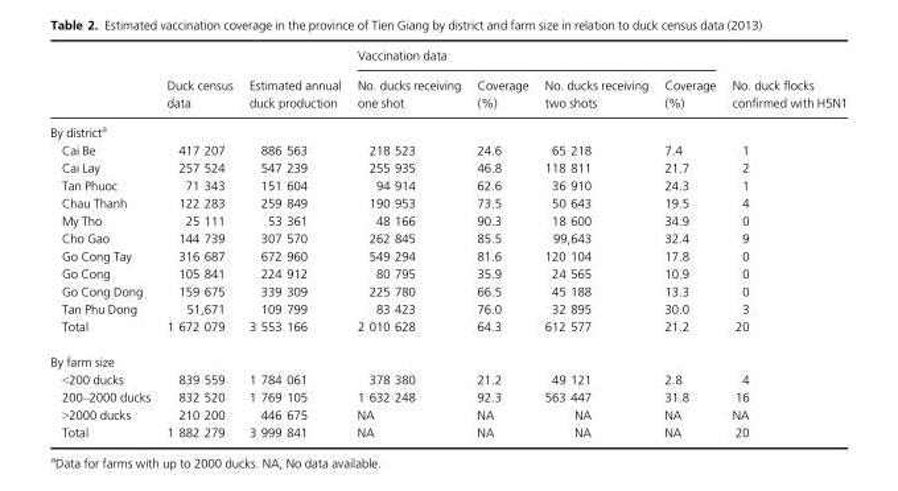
<table><thead><tr><td rowspan="2"></td><td rowspan="2">Duck census data</td><td rowspan="2">Estimated annual duck production</td><td colspan="4">Vaccination data</td><td rowspan="2">No. duck flocks confirmed with H5N1</td></tr><tr><td>No. ducks receiving one shot</td><td>Coverage (%)</td><td>No. ducks receiving two shots</td><td>Coverage (%)</td></tr></thead><tbody><tr><td colspan="8">By district<sup>a</sup></td></tr><tr><td>Cai Be</td><td>417 207</td><td>886 563</td><td>218 523</td><td>24.6</td><td>65 218</td><td>7.4</td><td>1</td></tr><tr><td>Cai Lay</td><td>257 524</td><td>547 239</td><td>255 935</td><td>46.8</td><td>118 811</td><td>21.7</td><td>2</td></tr><tr><td>Tan Phuoc</td><td>71 343</td><td>151 604</td><td>94 914</td><td>62.6</td><td>36 910</td><td>24.3</td><td>1</td></tr><tr><td>Chau Thanh</td><td>122 283</td><td>259 849</td><td>190 953</td><td>73.5</td><td>50 643</td><td>19.5</td><td>4</td></tr><tr><td>My Tho</td><td>25 111</td><td>53 361</td><td>48 166</td><td>90.3</td><td>18 600</td><td>34.9</td><td>0</td></tr><tr><td>Cho Gao</td><td>144 739</td><td>307 570</td><td>262 845</td><td>85.5</td><td>99,643</td><td>32.4</td><td>9</td></tr><tr><td>Go Cong Tay</td><td>316 687</td><td>672 960</td><td>549 294</td><td>81.6</td><td>120 104</td><td>17.8</td><td>0</td></tr><tr><td>Go Cong</td><td>105 841</td><td>224 912</td><td>80 795</td><td>35.9</td><td>24 565</td><td>10.9</td><td>0</td></tr><tr><td>Go Cong Dong</td><td>159 675</td><td>339 309</td><td>225 780</td><td>66.5</td><td>45 188</td><td>13.3</td><td>0</td></tr><tr><td>Tan Phu Dong</td><td>51,671</td><td>109 799</td><td>83 423</td><td>76.0</td><td>32 895</td><td>30.0</td><td>3</td></tr><tr><td>Total</td><td>1 672 079</td><td>3 553 166</td><td>2 010 628</td><td>64.3</td><td>612 577</td><td>21.2</td><td>20</td></tr><tr><td colspan="8">By farm size</td></tr><tr><td>&lt;200 ducks</td><td>839 559</td><td>1 784 061</td><td>378 380</td><td>21.2</td><td>49 121</td><td>2.8</td><td>4</td></tr><tr><td>200–2000 ducks</td><td>832 520</td><td>1 769 105</td><td>1 632 248</td><td>92.3</td><td>563 447</td><td>31.8</td><td>16</td></tr><tr><td>&gt;2000 ducks</td><td>210 200</td><td>446 675</td><td>NA</td><td>NA</td><td>NA</td><td>NA</td><td>NA</td></tr><tr><td>Total</td><td>1 882 279</td><td>3 999 841</td><td>NA</td><td>NA</td><td>NA</td><td>NA</td><td>20</td></tr></tbody></table>